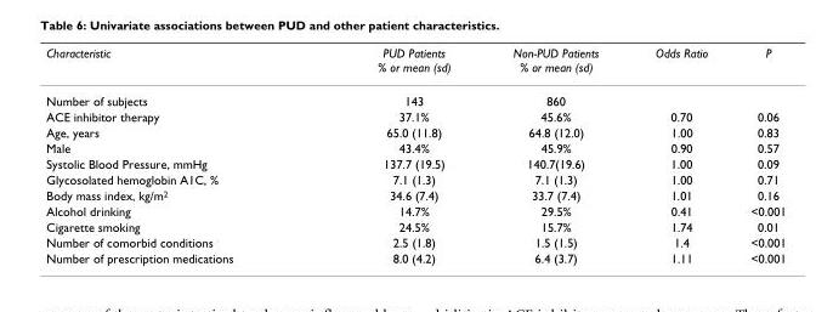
<table><thead><tr><td>Characteristic</td><td>PUD Patients % or mean (sd)</td><td>Non-PUD Patients % or mean (sd)</td><td>Odds Ratio</td><td>P</td></tr></thead><tbody><tr><td>Number of subjects</td><td>143</td><td>860</td><td></td><td></td></tr><tr><td>ACE inhibitor therapy</td><td>37.1%</td><td>45.6%</td><td>0.70</td><td>0.06</td></tr><tr><td>Age, years</td><td>65.0 (11.8)</td><td>64.8 (12.0)</td><td>1.00</td><td>0.83</td></tr><tr><td>Male</td><td>43.4%</td><td>45.9%</td><td>0.90</td><td>0.57</td></tr><tr><td>Systolic Blood Pressure, mmHg</td><td>137.7 (19.5)</td><td>140.7(19.6)</td><td>1.00</td><td>0.09</td></tr><tr><td>Glycosolated hemoglobin A1C, %</td><td>7.1 (1.3)</td><td>7.1 (1.3)</td><td>1.00</td><td>0.71</td></tr><tr><td>Body mass index, kg/m<sup>2</sup></td><td>34.6 (7.4)</td><td>33.7 (7.4)</td><td>1.01</td><td>0.16</td></tr><tr><td>Alcohol drinking</td><td>14.7%</td><td>29.5%</td><td>0.41</td><td>&lt;0.001</td></tr><tr><td>Cigarette smoking</td><td>24.5%</td><td>15.7%</td><td>1.74</td><td>0.01</td></tr><tr><td>Number of comorbid conditions</td><td>2.5 (1.8)</td><td>1.5 (1.5)</td><td>1.4</td><td>&lt;0.001</td></tr><tr><td>Number of prescription medications</td><td>8.0 (4.2)</td><td>6.4 (3.7)</td><td>1.11</td><td>&lt;0.001</td></tr></tbody></table>